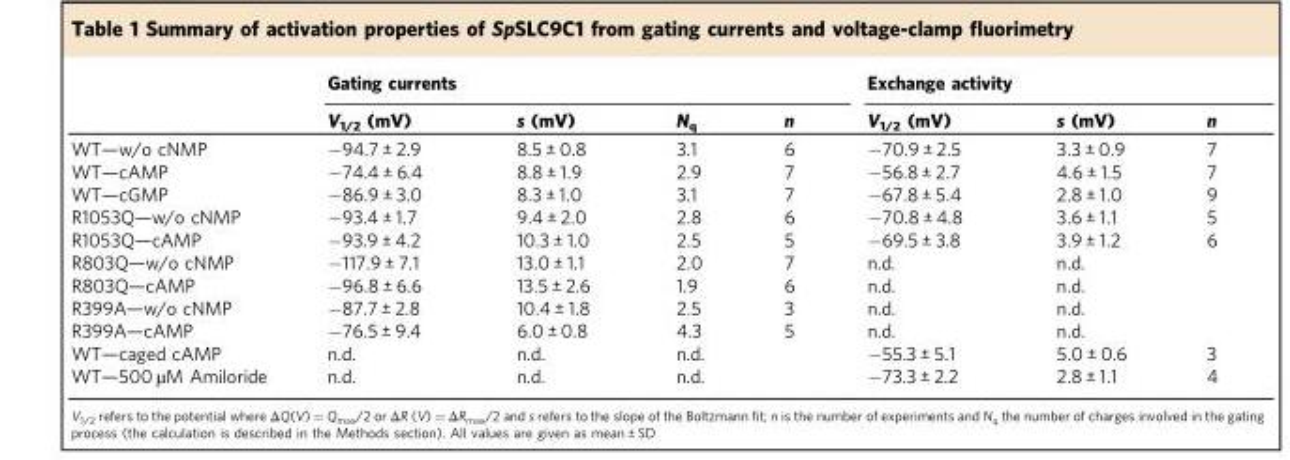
<table><thead><tr><td rowspan="2"></td><td colspan="4">Gating currents</td><td colspan="3">Exchange activity</td></tr><tr><td>V<sub>1/2</sub> (mV)</td><td>s (mV)</td><td>N<sub>q</sub></td><td>n</td><td>V<sub>1/2</sub> (mV)</td><td>s (mV)</td><td>n</td></tr></thead><tbody><tr><td>WT—w/o cNMP</td><td>−94.7 ± 2.9</td><td>8.5 ± 0.8</td><td>3.1</td><td>6</td><td>−70.9 ± 2.5</td><td>3.3 ± 0.9</td><td>7</td></tr><tr><td>WT—cAMP</td><td>−74.4 ± 6.4</td><td>8.8 ± 1.9</td><td>2.9</td><td>7</td><td>−56.8 ± 2.7</td><td>4.6 ± 1.5</td><td>7</td></tr><tr><td>WT—cGMP</td><td>−86.9 ± 3.0</td><td>8.3 ± 1.0</td><td>3.1</td><td>7</td><td>−67.8 ± 5.4</td><td>2.8 ± 1.0</td><td>9</td></tr><tr><td>R1053Q—w/o cNMP</td><td>−93.4 ± 1.7</td><td>9.4 ± 2.0</td><td>2.8</td><td>6</td><td>−70.8 ± 4.8</td><td>3.6 ± 1.1</td><td>5</td></tr><tr><td>R1053Q—cAMP</td><td>−93.9 ± 4.2</td><td>10.3 ± 1.0</td><td>2.5</td><td>5</td><td>−69.5 ± 3.8</td><td>3.9 ± 1.2</td><td>6</td></tr><tr><td>R803Q—w/o cNMP</td><td>−117.9 ± 7.1</td><td>13.0 ± 1.1</td><td>2.0</td><td>7</td><td>n.d.</td><td>n.d.</td><td></td></tr><tr><td>R803Q—cAMP</td><td>−96.8 ± 6.6</td><td>13.5 ± 2.6</td><td>1.9</td><td>6</td><td>n.d.</td><td>n.d.</td><td></td></tr><tr><td>R399A—w/o cNMP</td><td>−87.7 ± 2.8</td><td>10.4 ± 1.8</td><td>2.5</td><td>3</td><td>n.d.</td><td>n.d.</td><td></td></tr><tr><td>R399A—cAMP</td><td>−76.5 ± 9.4</td><td>6.0 ± 0.8</td><td>4.3</td><td>5</td><td>n.d.</td><td>n.d.</td><td></td></tr><tr><td>WT—caged cAMP</td><td>n.d.</td><td>n.d.</td><td>n.d.</td><td></td><td>−55.3 ± 5.1</td><td>5.0 ± 0.6</td><td>3</td></tr><tr><td>WT—500 µM Amiloride</td><td>n.d.</td><td>n.d.</td><td>n.d.</td><td></td><td>−73.3 ± 2.2</td><td>2.8 ± 1.1</td><td>4</td></tr></tbody></table>